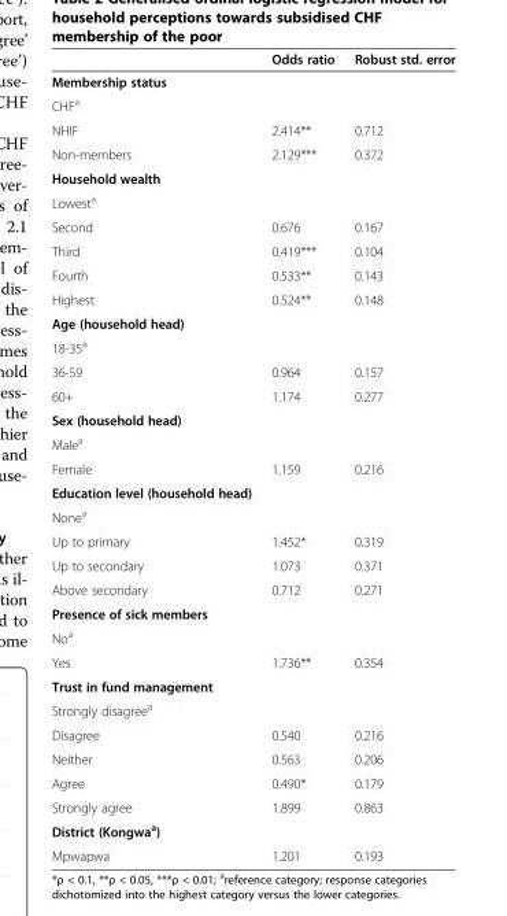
<table><thead><tr><td></td><td>Odds ratio</td><td>Robust std. error</td></tr></thead><tbody><tr><td colspan="3">Membership status</td></tr><tr><td colspan="3">CHF<sup>a</sup></td></tr><tr><td>NHIF</td><td>2.414**</td><td>0.712</td></tr><tr><td>Non-members</td><td>2.129***</td><td>0.372</td></tr><tr><td colspan="3">Household wealth</td></tr><tr><td colspan="3">Lowest<sup>a</sup></td></tr><tr><td>Second</td><td>0.676</td><td>0.167</td></tr><tr><td>Third</td><td>0.419***</td><td>0.104</td></tr><tr><td>Fourth</td><td>0.533**</td><td>0.143</td></tr><tr><td>Highest</td><td>0.524**</td><td>0.148</td></tr><tr><td colspan="3">Age (household head)</td></tr><tr><td colspan="3">18-35<sup>a</sup></td></tr><tr><td>36-59</td><td>0.964</td><td>0.157</td></tr><tr><td>60+</td><td>1.174</td><td>0.277</td></tr><tr><td colspan="3">Sex (household head)</td></tr><tr><td colspan="3">Male<sup>a</sup></td></tr><tr><td>Female</td><td>1.159</td><td>0.216</td></tr><tr><td colspan="3">Education level (household head)</td></tr><tr><td colspan="3">None<sup>a</sup></td></tr><tr><td>Up to primary</td><td>1.452*</td><td>0.319</td></tr><tr><td>Up to secondary</td><td>1.073</td><td>0.371</td></tr><tr><td>Above secondary</td><td>0.712</td><td>0.271</td></tr><tr><td colspan="3">Presence of sick members</td></tr><tr><td colspan="3">No<sup>a</sup></td></tr><tr><td>Yes</td><td>1.736**</td><td>0.354</td></tr><tr><td colspan="3">Trust in fund management</td></tr><tr><td colspan="3">Strongly disagree<sup>a</sup></td></tr><tr><td>Disagree</td><td>0.540</td><td>0.216</td></tr><tr><td>Neither</td><td>0.563</td><td>0.206</td></tr><tr><td>Agree</td><td>0.490*</td><td>0.179</td></tr><tr><td>Strongly agree</td><td>1.899</td><td>0.863</td></tr><tr><td colspan="3">District (Kongwa<sup>a</sup>)</td></tr><tr><td>Mpwapwa</td><td>1.201</td><td>0.193</td></tr></tbody></table>